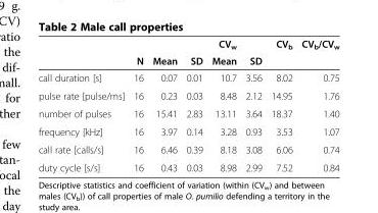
<table><thead><tr><td rowspan="2"></td><td rowspan="2">N</td><td rowspan="2">Mean</td><td rowspan="2">SD</td><td rowspan="2">CV<sub>w</sub> Mean</td><td rowspan="2">SD</td><td rowspan="2">CV<sub>b</sub></td><td rowspan="2">CV<sub>b</sub>/CV<sub>w</sub></td></tr><tr></tr></thead><tbody><tr><td>call duration [s]</td><td>16</td><td>0.07</td><td>0.01</td><td>10.7</td><td>3.56</td><td>8.02</td><td>0.75</td></tr><tr><td>pulse rate [pulse/ms]</td><td>16</td><td>0.23</td><td>0.03</td><td>8.48</td><td>2.12</td><td>14.95</td><td>1.76</td></tr><tr><td>number of pulses</td><td>16</td><td>15.41</td><td>2.83</td><td>13.11</td><td>3.64</td><td>18.37</td><td>1.40</td></tr><tr><td>frequency [kHz]</td><td>16</td><td>3.97</td><td>0.14</td><td>3.28</td><td>0.93</td><td>3.53</td><td>1.07</td></tr><tr><td>call rate [calls/s]</td><td>16</td><td>6.46</td><td>0.39</td><td>8.18</td><td>3.08</td><td>6.06</td><td>0.74</td></tr><tr><td>duty cycle [s/s]</td><td>16</td><td>0.43</td><td>0.03</td><td>8.98</td><td>2.99</td><td>7.52</td><td>0.84</td></tr></tbody></table>